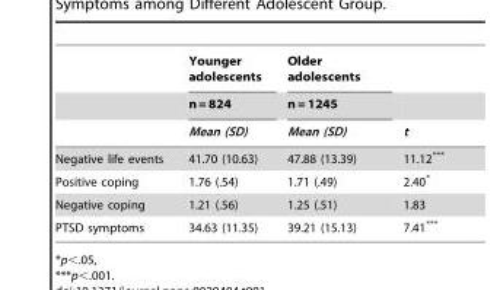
<table><thead><tr><td rowspan="3"></td><td rowspan="3">Younger adolescents n = 824 Mean (SD)</td><td rowspan="3">Older adolescents n = 1245 Mean (SD)</td><td rowspan="3">t</td></tr><tr></tr><tr></tr></thead><tbody><tr><td>Negative life events</td><td>41.70 (10.63)</td><td>47.88 (13.39)</td><td>11.12***</td></tr><tr><td>Positive coping</td><td>1.76 (.54)</td><td>1.71 (.49)</td><td>2.40*</td></tr><tr><td>Negative coping</td><td>1.21 (.56)</td><td>1.25 (.51)</td><td>1.83</td></tr><tr><td>PTSD symptoms</td><td>34.63 (11.35)</td><td>39.21 (15.13)</td><td>7.41***</td></tr></tbody></table>